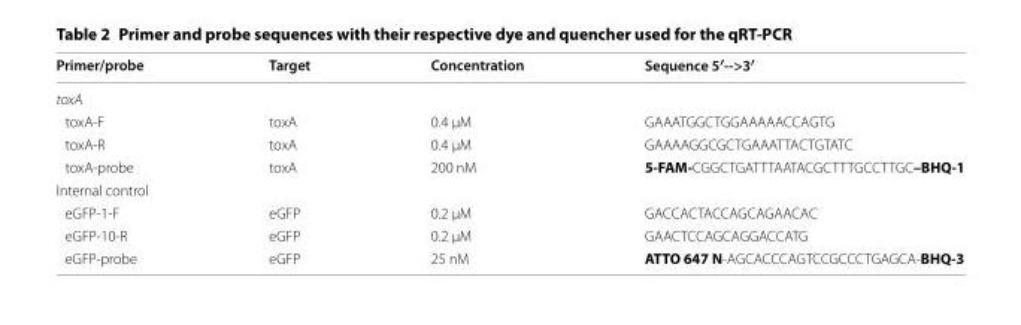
<table><thead><tr><td>Primer/probe</td><td>Target</td><td>Concentration</td><td>Sequence 5′--&gt;3′</td></tr></thead><tbody><tr><td colspan="4">toxA</td></tr><tr><td>toxA-F</td><td>toxA</td><td>0.4 µM</td><td>GAAATGGCTGGAAAAACCAGTG</td></tr><tr><td>toxA-R</td><td>toxA</td><td>0.4 µM</td><td>GAAAAGGCGCTGAAATTACTGTATC</td></tr><tr><td>toxA-probe</td><td>toxA</td><td>200 nM</td><td>5-FAM-CGGCTGATTTAATACGCTTTGCCTTGC–BHQ-1</td></tr><tr><td colspan="4">Internal control</td></tr><tr><td>eGFP-1-F</td><td>eGFP</td><td>0.2 µM</td><td>GACCACTACCAGCAGAACAC</td></tr><tr><td>eGFP-10-R</td><td>eGFP</td><td>0.2 µM</td><td>GAACTCCAGCAGGACCATG</td></tr><tr><td>eGFP-probe</td><td>eGFP</td><td>25 nM</td><td>ATTO 647 N-AGCACCCAGTCCGCCCTGAGCA-BHQ-3</td></tr></tbody></table>